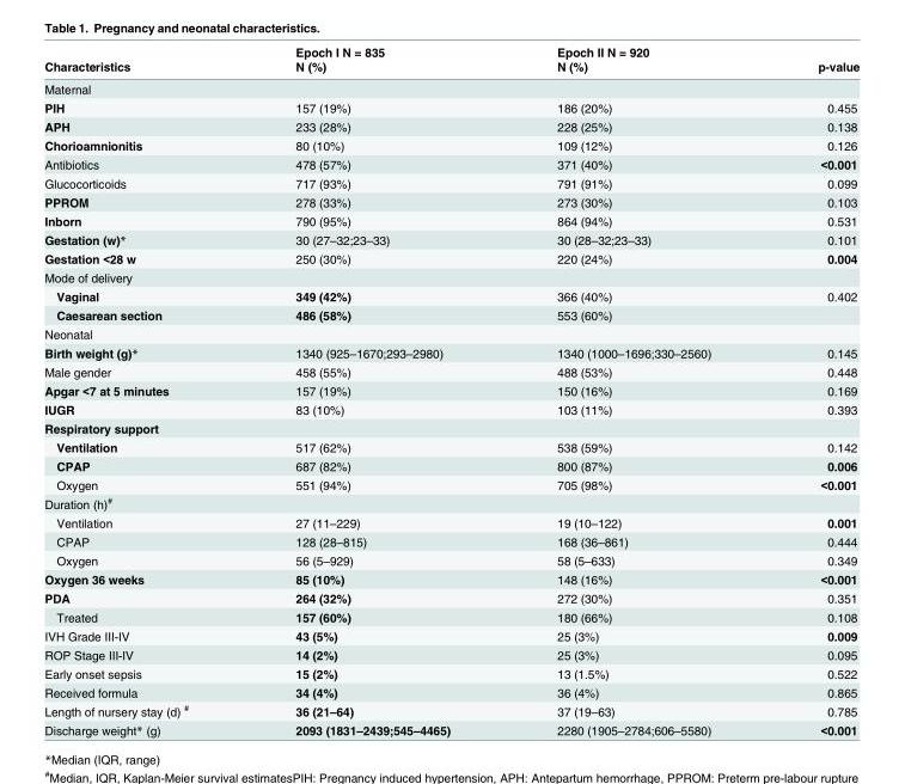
<table><thead><tr><td rowspan="2">Characteristics</td><td rowspan="2">Epoch I N = 835 N (%)</td><td rowspan="2">Epoch II N = 920 N (%)</td><td rowspan="2">p-value</td></tr><tr></tr></thead><tbody><tr><td colspan="4">Maternal</td></tr><tr><td>PIH</td><td>157 (19%)</td><td>186 (20%)</td><td>0.455</td></tr><tr><td>APH</td><td>233 (28%)</td><td>228 (25%)</td><td>0.138</td></tr><tr><td>Chorioamnionitis</td><td>80 (10%)</td><td>109 (12%)</td><td>0.126</td></tr><tr><td>Antibiotics</td><td>478 (57%)</td><td>371 (40%)</td><td>&lt;0.001</td></tr><tr><td>Glucocorticoids</td><td>717 (93%)</td><td>791 (91%)</td><td>0.099</td></tr><tr><td>PPROM</td><td>278 (33%)</td><td>273 (30%)</td><td>0.103</td></tr><tr><td>Inborn</td><td>790 (95%)</td><td>864 (94%)</td><td>0.531</td></tr><tr><td>Gestation (w)*</td><td>30 (27–32;23–33)</td><td>30 (28–32;23–33)</td><td>0.101</td></tr><tr><td>Gestation &lt;28 w</td><td>250 (30%)</td><td>220 (24%)</td><td>0.004</td></tr><tr><td colspan="4">Mode of delivery</td></tr><tr><td>Vaginal</td><td>349 (42%)</td><td>366 (40%)</td><td>0.402</td></tr><tr><td>Caesarean section</td><td>486 (58%)</td><td>553 (60%)</td><td></td></tr><tr><td colspan="4">Neonatal</td></tr><tr><td>Birth weight (g)*</td><td>1340 (925–1670;293–2980)</td><td>1340 (1000–1696;330–2560)</td><td>0.145</td></tr><tr><td>Male gender</td><td>458 (55%)</td><td>488 (53%)</td><td>0.448</td></tr><tr><td>Apgar &lt;7 at 5 minutes</td><td>157 (19%)</td><td>150 (16%)</td><td>0.169</td></tr><tr><td>IUGR</td><td>83 (10%)</td><td>103 (11%)</td><td>0.393</td></tr><tr><td colspan="4">Respiratory support</td></tr><tr><td>Ventilation</td><td>517 (62%)</td><td>538 (59%)</td><td>0.142</td></tr><tr><td>CPAP</td><td>687 (82%)</td><td>800 (87%)</td><td>0.006</td></tr><tr><td>Oxygen</td><td>551 (94%)</td><td>705 (98%)</td><td>&lt;0.001</td></tr><tr><td colspan="4">Duration (h)<sup>#</sup></td></tr><tr><td>Ventilation</td><td>27 (11–229)</td><td>19 (10–122)</td><td>0.001</td></tr><tr><td>CPAP</td><td>128 (28–815)</td><td>168 (36–861)</td><td>0.444</td></tr><tr><td>Oxygen</td><td>56 (5–929)</td><td>58 (5–633)</td><td>0.349</td></tr><tr><td>Oxygen 36 weeks</td><td>85 (10%)</td><td>148 (16%)</td><td>&lt;0.001</td></tr><tr><td>PDA</td><td>264 (32%)</td><td>272 (30%)</td><td>0.351</td></tr><tr><td>Treated</td><td>157 (60%)</td><td>180 (66%)</td><td>0.108</td></tr><tr><td>IVH Grade III-IV</td><td>43 (5%)</td><td>25 (3%)</td><td>0.009</td></tr><tr><td>ROP Stage III-IV</td><td>14 (2%)</td><td>25 (3%)</td><td>0.095</td></tr><tr><td>Early onset sepsis</td><td>15 (2%)</td><td>13 (1.5%)</td><td>0.522</td></tr><tr><td>Received formula</td><td>34 (4%)</td><td>36 (4%)</td><td>0.865</td></tr><tr><td>Length of nursery stay (d) <sup>#</sup></td><td>36 (21–64)</td><td>37 (19–63)</td><td>0.785</td></tr><tr><td>Discharge weight* (g)</td><td>2093 (1831–2439;545–4465)</td><td>2280 (1905–2784;606–5580)</td><td>&lt;0.001</td></tr></tbody></table>